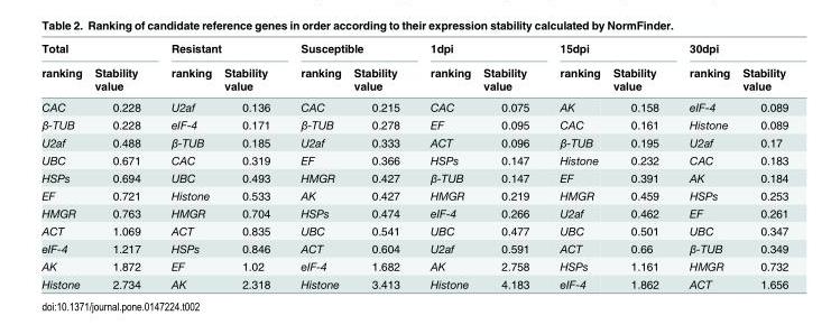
<table><thead><tr><td colspan="2">Total</td><td colspan="2">Resistant</td><td colspan="2">Susceptible</td><td colspan="2">1dpi</td><td colspan="2">15dpi</td><td colspan="2">30dpi</td></tr><tr><td>ranking</td><td>Stability value</td><td>ranking</td><td>Stability value</td><td>ranking</td><td>Stability value</td><td>ranking</td><td>Stability value</td><td>ranking</td><td>Stability value</td><td>ranking</td><td>Stability value</td></tr></thead><tbody><tr><td>CAC</td><td>0.228</td><td>U2af</td><td>0.136</td><td>CAC</td><td>0.215</td><td>CAC</td><td>0.075</td><td>AK</td><td>0.158</td><td>eIF-4</td><td>0.089</td></tr><tr><td>β-TUB</td><td>0.228</td><td>eIF-4</td><td>0.171</td><td>β-TUB</td><td>0.278</td><td>EF</td><td>0.095</td><td>CAC</td><td>0.161</td><td>Histone</td><td>0.089</td></tr><tr><td>U2af</td><td>0.488</td><td>β-TUB</td><td>0.185</td><td>U2af</td><td>0.333</td><td>ACT</td><td>0.096</td><td>β-TUB</td><td>0.195</td><td>U2af</td><td>0.17</td></tr><tr><td>UBC</td><td>0.671</td><td>CAC</td><td>0.319</td><td>EF</td><td>0.366</td><td>HSPs</td><td>0.147</td><td>Histone</td><td>0.232</td><td>CAC</td><td>0.183</td></tr><tr><td>HSPs</td><td>0.694</td><td>UBC</td><td>0.493</td><td>HMGR</td><td>0.427</td><td>β-TUB</td><td>0.147</td><td>EF</td><td>0.391</td><td>AK</td><td>0.184</td></tr><tr><td>EF</td><td>0.721</td><td>Histone</td><td>0.533</td><td>AK</td><td>0.427</td><td>HMGR</td><td>0.219</td><td>HMGR</td><td>0.459</td><td>HSPs</td><td>0.253</td></tr><tr><td>HMGR</td><td>0.763</td><td>HMGR</td><td>0.704</td><td>HSPs</td><td>0.474</td><td>eIF-4</td><td>0.266</td><td>U2af</td><td>0.462</td><td>EF</td><td>0.261</td></tr><tr><td>ACT</td><td>1.069</td><td>ACT</td><td>0.835</td><td>UBC</td><td>0.541</td><td>UBC</td><td>0.477</td><td>UBC</td><td>0.501</td><td>UBC</td><td>0.347</td></tr><tr><td>eIF-4</td><td>1.217</td><td>HSPs</td><td>0.846</td><td>ACT</td><td>0.604</td><td>U2af</td><td>0.591</td><td>ACT</td><td>0.66</td><td>β-TUB</td><td>0.349</td></tr><tr><td>AK</td><td>1.872</td><td>EF</td><td>1.02</td><td>eIF-4</td><td>1.682</td><td>AK</td><td>2.758</td><td>HSPs</td><td>1.161</td><td>HMGR</td><td>0.732</td></tr><tr><td>Histone</td><td>2.734</td><td>AK</td><td>2.318</td><td>Histone</td><td>3.413</td><td>Histone</td><td>4.183</td><td>eIF-4</td><td>1.862</td><td>ACT</td><td>1.656</td></tr></tbody></table>